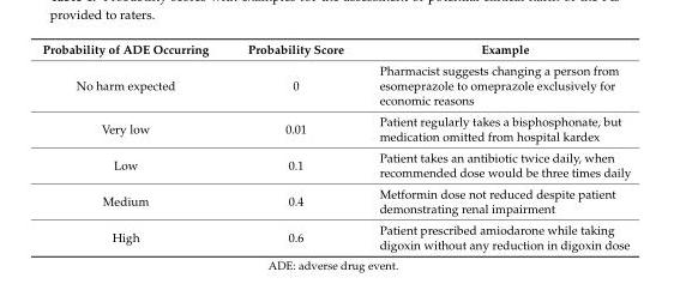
<table><thead><tr><td>Probability of ADE Occurring</td><td>Probability Score</td><td>Example</td></tr></thead><tbody><tr><td>No harm expected</td><td>0</td><td>Pharmacist suggests changing a person from esomeprazole to omeprazole exclusively for economic reasons</td></tr><tr><td>Very low</td><td>0.01</td><td>Patient regularly takes a bisphosphonate, but medication omitted from hospital kardex</td></tr><tr><td>Low</td><td>0.1</td><td>Patient takes an antibiotic twice daily, when recommended dose would be three times daily</td></tr><tr><td>Medium</td><td>0.4</td><td>Metformin dose not reduced despite patient demonstrating renal impairment</td></tr><tr><td>High</td><td>0.6</td><td>Patient prescribed amiodarone while taking digoxin without any reduction in digoxin dose</td></tr></tbody></table>